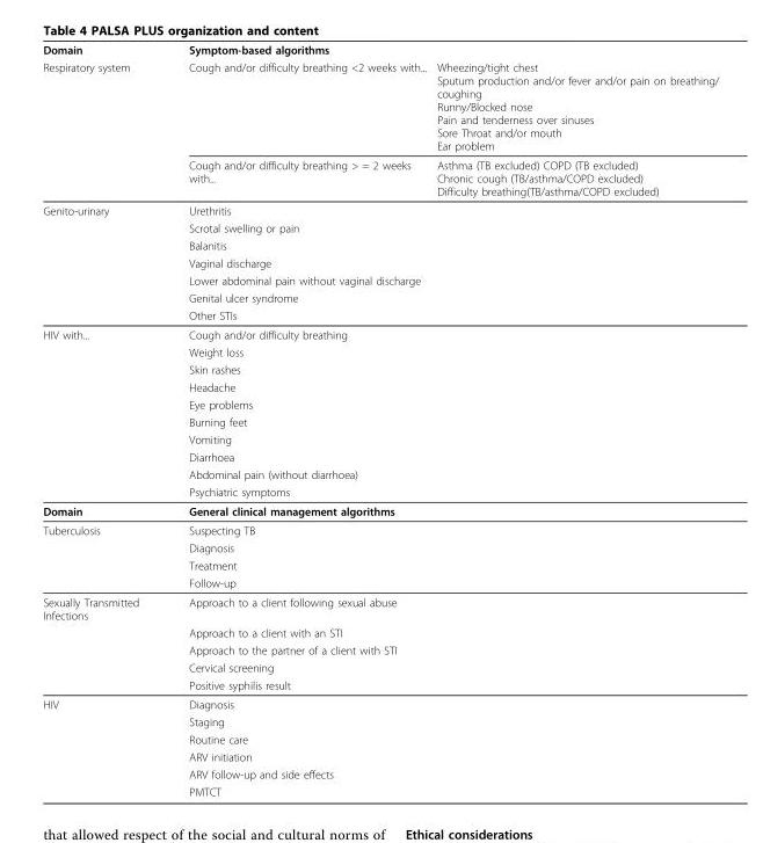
<table><thead><tr><td rowspan="3">Domain Respiratory system</td><td colspan="2">Symptom-based algorithms</td></tr><tr><td rowspan="2">Cough and/or difficulty breathing &lt;2 weeks with... Cough and/or difficulty breathing &gt; = 2 weeks with...</td><td rowspan="2">Wheezing/tight chest Sputum production and/or fever and/or pain on breathing/ coughing Runny/Blocked nose Pain and tenderness over sinuses Sore Throat and/or mouth Ear problem Asthma (TB excluded) COPD (TB excluded) Chronic cough (TB/asthma/COPD excluded) Difficulty breathing(TB/asthma/COPD excluded)</td></tr><tr></tr></thead><tbody><tr><td rowspan="7">Genito-urinary</td><td>Urethritis</td><td></td></tr><tr><td>Scrotal swelling or pain</td><td></td></tr><tr><td>Balanitis</td><td></td></tr><tr><td>Vaginal discharge</td><td></td></tr><tr><td colspan="2">Lower abdominal pain without vaginal discharge</td></tr><tr><td>Genital ulcer syndrome</td><td></td></tr><tr><td>Other STIs</td><td></td></tr><tr><td rowspan="10">HIV with...</td><td colspan="2">Cough and/or difficulty breathing</td></tr><tr><td>Weight loss</td><td></td></tr><tr><td>Skin rashes</td><td></td></tr><tr><td>Headache</td><td></td></tr><tr><td>Eye problems</td><td></td></tr><tr><td>Burning feet</td><td></td></tr><tr><td>Vomiting</td><td></td></tr><tr><td>Diarrhoea</td><td></td></tr><tr><td colspan="2">Abdominal pain (without diarrhoea)</td></tr><tr><td>Psychiatric symptoms</td><td></td></tr><tr><td>Domain</td><td colspan="2">General clinical management algorithms</td></tr><tr><td rowspan="4">Tuberculosis</td><td>Suspecting TB</td><td></td></tr><tr><td>Diagnosis</td><td></td></tr><tr><td>Treatment</td><td></td></tr><tr><td>Follow-up</td><td></td></tr><tr><td rowspan="5">Sexually Transmitted Infections</td><td colspan="2">Approach to a client following sexual abuse</td></tr><tr><td colspan="2">Approach to a client with an STI</td></tr><tr><td colspan="2">Approach to the partner of a client with STI</td></tr><tr><td>Cervical screening</td><td></td></tr><tr><td>Positive syphilis result</td><td></td></tr><tr><td rowspan="6">HIV</td><td>Diagnosis</td><td></td></tr><tr><td>Staging</td><td></td></tr><tr><td>Routine care</td><td></td></tr><tr><td>ARV initiation</td><td></td></tr><tr><td colspan="2">ARV follow-up and side effects</td></tr><tr><td>PMTCT</td><td></td></tr></tbody></table>